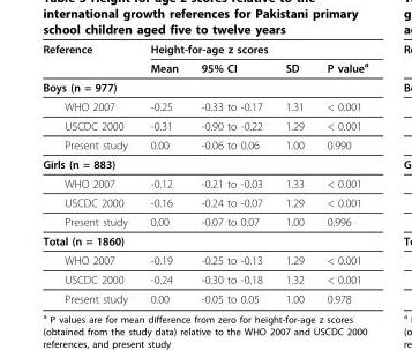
<table><thead><tr><td rowspan="2">Reference</td><td colspan="4">Height-for-age z scores</td></tr><tr><td>Mean</td><td>95% CI</td><td>SD</td><td>P value<sup>a</sup></td></tr></thead><tbody><tr><td colspan="5">Boys (n = 977)</td></tr><tr><td>WHO 2007</td><td>-0.25</td><td>-0.33 to -0.17</td><td>1.31</td><td>&lt; 0.001</td></tr><tr><td>USCDC 2000</td><td>-0.31</td><td>-0.90 to -0.22</td><td>1.29</td><td>&lt; 0.001</td></tr><tr><td>Present study</td><td>0.00</td><td>-0.06 to 0.06</td><td>1.00</td><td>0.990</td></tr><tr><td colspan="5">Girls (n = 883)</td></tr><tr><td>WHO 2007</td><td>-0.12</td><td>-0.21 to -0.03</td><td>1.33</td><td>&lt; 0.001</td></tr><tr><td>USCDC 2000</td><td>-0.16</td><td>-0.24 to -0.07</td><td>1.29</td><td>&lt; 0.001</td></tr><tr><td>Present study</td><td>0.00</td><td>-0.07 to 0.07</td><td>1.00</td><td>0.996</td></tr><tr><td colspan="5">Total (n = 1860)</td></tr><tr><td>WHO 2007</td><td>-0.19</td><td>-0.25 to -0.13</td><td>1.29</td><td>&lt; 0.001</td></tr><tr><td>USCDC 2000</td><td>-0.24</td><td>-0.30 to -0.18</td><td>1.32</td><td>&lt; 0.001</td></tr><tr><td>Present study</td><td>0.00</td><td>-0.05 to 0.05</td><td>1.00</td><td>0.978</td></tr></tbody></table>